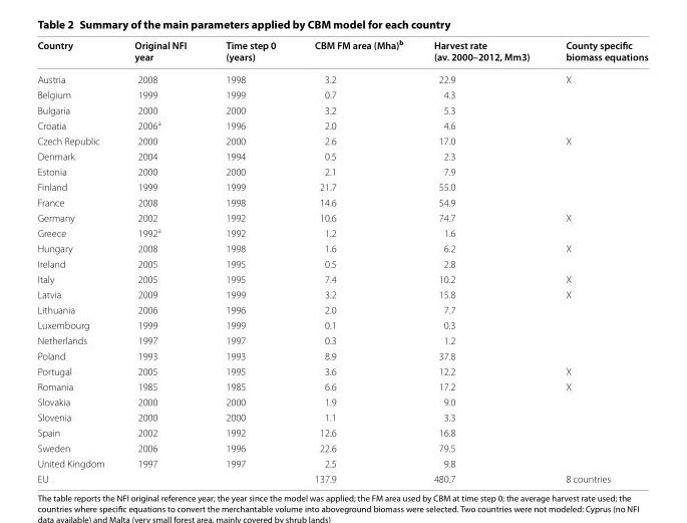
<table><thead><tr><td>Country</td><td>Original NFI year</td><td>Time step 0 (years)</td><td>CBM FM area (Mha)<sup>b</sup></td><td>Harvest rate (av. 2000–2012, Mm3)</td><td>County specific biomass equations</td></tr></thead><tbody><tr><td>Austria</td><td>2008</td><td>1998</td><td>3.2</td><td>22.9</td><td>X</td></tr><tr><td>Belgium</td><td>1999</td><td>1999</td><td>0.7</td><td>4.3</td><td></td></tr><tr><td>Bulgaria</td><td>2000</td><td>2000</td><td>3.2</td><td>5.3</td><td></td></tr><tr><td>Croatia</td><td>2006<sup>a</sup></td><td>1996</td><td>2.0</td><td>4.6</td><td></td></tr><tr><td>Czech Republic</td><td>2000</td><td>2000</td><td>2.6</td><td>17.0</td><td>X</td></tr><tr><td>Denmark</td><td>2004</td><td>1994</td><td>0.5</td><td>2.3</td><td></td></tr><tr><td>Estonia</td><td>2000</td><td>2000</td><td>2.1</td><td>7.9</td><td></td></tr><tr><td>Finland</td><td>1999</td><td>1999</td><td>21.7</td><td>55.0</td><td></td></tr><tr><td>France</td><td>2008</td><td>1998</td><td>14.6</td><td>54.9</td><td></td></tr><tr><td>Germany</td><td>2002</td><td>1992</td><td>10.6</td><td>74.7</td><td>X</td></tr><tr><td>Greece</td><td>1992<sup>a</sup></td><td>1992</td><td>1.2</td><td>1.6</td><td></td></tr><tr><td>Hungary</td><td>2008</td><td>1998</td><td>1.6</td><td>6.2</td><td>X</td></tr><tr><td>Ireland</td><td>2005</td><td>1995</td><td>0.5</td><td>2.8</td><td></td></tr><tr><td>Italy</td><td>2005</td><td>1995</td><td>7.4</td><td>10.2</td><td>X</td></tr><tr><td>Latvia</td><td>2009</td><td>1999</td><td>3.2</td><td>15.8</td><td>X</td></tr><tr><td>Lithuania</td><td>2006</td><td>1996</td><td>2.0</td><td>7.7</td><td></td></tr><tr><td>Luxembourg</td><td>1999</td><td>1999</td><td>0.1</td><td>0.3</td><td></td></tr><tr><td>Netherlands</td><td>1997</td><td>1997</td><td>0.3</td><td>1.2</td><td></td></tr><tr><td>Poland</td><td>1993</td><td>1993</td><td>8.9</td><td>37.8</td><td></td></tr><tr><td>Portugal</td><td>2005</td><td>1995</td><td>3.6</td><td>12.2</td><td>X</td></tr><tr><td>Romania</td><td>1985</td><td>1985</td><td>6.6</td><td>17.2</td><td>X</td></tr><tr><td>Slovakia</td><td>2000</td><td>2000</td><td>1.9</td><td>9.0</td><td></td></tr><tr><td>Slovenia</td><td>2000</td><td>2000</td><td>1.1</td><td>3.3</td><td></td></tr><tr><td>Spain</td><td>2002</td><td>1992</td><td>12.6</td><td>16.8</td><td></td></tr><tr><td>Sweden</td><td>2006</td><td>1996</td><td>22.6</td><td>79.5</td><td></td></tr><tr><td>United Kingdom</td><td>1997</td><td>1997</td><td>2.5</td><td>9.8</td><td></td></tr><tr><td>EU</td><td></td><td></td><td>137.9</td><td>480.7</td><td>8 countries</td></tr></tbody></table>